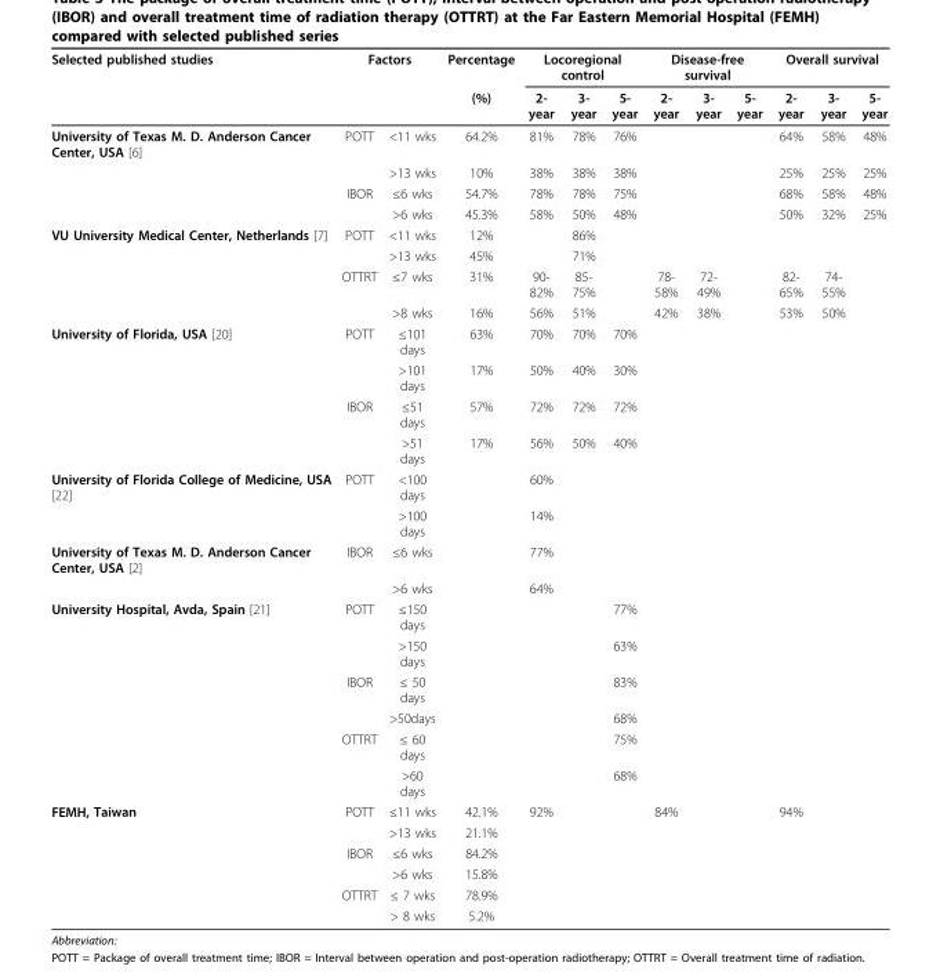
<table><thead><tr><td rowspan="2">Selected published studies</td><td colspan="2">Factors</td><td rowspan="2">Percentage (%)</td><td colspan="3">Locoregional control</td><td colspan="3">Disease-free survival</td><td colspan="3">Overall survival</td></tr><tr><td></td><td></td><td>2- year</td><td>3- year</td><td>5- year</td><td>2- year</td><td>3- year</td><td>5- year</td><td>2- year</td><td>3- year</td><td>5- year</td></tr></thead><tbody><tr><td rowspan="4">University of Texas M. D. Anderson Cancer Center, USA [6]</td><td>POTT</td><td>&lt;11 wks</td><td>64.2%</td><td>81%</td><td>78%</td><td>76%</td><td></td><td></td><td></td><td>64%</td><td>58%</td><td>48%</td></tr><tr><td></td><td>&gt;13 wks</td><td>10%</td><td>38%</td><td>38%</td><td>38%</td><td></td><td></td><td></td><td>25%</td><td>25%</td><td>25%</td></tr><tr><td>IBOR</td><td>≤6 wks</td><td>54.7%</td><td>78%</td><td>78%</td><td>75%</td><td></td><td></td><td></td><td>68%</td><td>58%</td><td>48%</td></tr><tr><td></td><td>&gt;6 wks</td><td>45.3%</td><td>58%</td><td>50%</td><td>48%</td><td></td><td></td><td></td><td>50%</td><td>32%</td><td>25%</td></tr><tr><td rowspan="4">VU University Medical Center, Netherlands [7]</td><td>POTT</td><td>&lt;11 wks</td><td>12%</td><td></td><td>86%</td><td></td><td></td><td></td><td></td><td></td><td></td><td></td></tr><tr><td></td><td>&gt;13 wks</td><td>45%</td><td></td><td>71%</td><td></td><td></td><td></td><td></td><td></td><td></td><td></td></tr><tr><td>OTTRT</td><td>≤7 wks</td><td>31%</td><td>90- 82%</td><td>85- 75%</td><td></td><td>78- 58%</td><td>72- 49%</td><td></td><td>82- 65%</td><td>74- 55%</td><td></td></tr><tr><td></td><td>&gt;8 wks</td><td>16%</td><td>56%</td><td>51%</td><td></td><td>42%</td><td>38%</td><td></td><td>53%</td><td>50%</td><td></td></tr><tr><td rowspan="4">University of Florida, USA [20]</td><td>POTT</td><td>≤101 days</td><td>63%</td><td>70%</td><td>70%</td><td>70%</td><td></td><td></td><td></td><td></td><td></td><td></td></tr><tr><td></td><td>&gt;101 days</td><td>17%</td><td>50%</td><td>40%</td><td>30%</td><td></td><td></td><td></td><td></td><td></td><td></td></tr><tr><td>IBOR</td><td>≤51 days</td><td>57%</td><td>72%</td><td>72%</td><td>72%</td><td></td><td></td><td></td><td></td><td></td><td></td></tr><tr><td></td><td>&gt;51 days</td><td>17%</td><td>56%</td><td>50%</td><td>40%</td><td></td><td></td><td></td><td></td><td></td><td></td></tr><tr><td rowspan="2">University of Florida College of Medicine, USA [22]</td><td>POTT</td><td>&lt;100 days</td><td></td><td>60%</td><td></td><td></td><td></td><td></td><td></td><td></td><td></td><td></td></tr><tr><td></td><td>&gt;100 days</td><td></td><td>14%</td><td></td><td></td><td></td><td></td><td></td><td></td><td></td><td></td></tr><tr><td rowspan="2">University of Texas M. D. Anderson Cancer Center, USA [2]</td><td>IBOR</td><td>≤6 wks</td><td></td><td>77%</td><td></td><td></td><td></td><td></td><td></td><td></td><td></td><td></td></tr><tr><td></td><td>&gt;6 wks</td><td></td><td>64%</td><td></td><td></td><td></td><td></td><td></td><td></td><td></td><td></td></tr><tr><td rowspan="6">University Hospital, Avda, Spain [21]</td><td>POTT</td><td>≤150 days</td><td></td><td></td><td></td><td>77%</td><td></td><td></td><td></td><td></td><td></td><td></td></tr><tr><td></td><td>&gt;150 days</td><td></td><td></td><td></td><td>63%</td><td></td><td></td><td></td><td></td><td></td><td></td></tr><tr><td>IBOR</td><td>≤ 50 days</td><td></td><td></td><td></td><td>83%</td><td></td><td></td><td></td><td></td><td></td><td></td></tr><tr><td></td><td>&gt;50days</td><td></td><td></td><td></td><td>68%</td><td></td><td></td><td></td><td></td><td></td><td></td></tr><tr><td>OTTRT</td><td>≤ 60 days</td><td></td><td></td><td></td><td>75%</td><td></td><td></td><td></td><td></td><td></td><td></td></tr><tr><td></td><td>&gt;60 days</td><td></td><td></td><td></td><td>68%</td><td></td><td></td><td></td><td></td><td></td><td></td></tr><tr><td rowspan="6">FEMH, Taiwan</td><td>POTT</td><td>≤11 wks</td><td>42.1%</td><td>92%</td><td></td><td></td><td>84%</td><td></td><td></td><td>94%</td><td></td><td></td></tr><tr><td></td><td>&gt;13 wks</td><td>21.1%</td><td></td><td></td><td></td><td></td><td></td><td></td><td></td><td></td><td></td></tr><tr><td>IBOR</td><td>≤6 wks</td><td>84.2%</td><td></td><td></td><td></td><td></td><td></td><td></td><td></td><td></td><td></td></tr><tr><td></td><td>&gt;6 wks</td><td>15.8%</td><td></td><td></td><td></td><td></td><td></td><td></td><td></td><td></td><td></td></tr><tr><td>OTTRT</td><td>≤ 7 wks</td><td>78.9%</td><td></td><td></td><td></td><td></td><td></td><td></td><td></td><td></td><td></td></tr><tr><td></td><td>&gt; 8 wks</td><td>5.2%</td><td></td><td></td><td></td><td></td><td></td><td></td><td></td><td></td><td></td></tr></tbody></table>